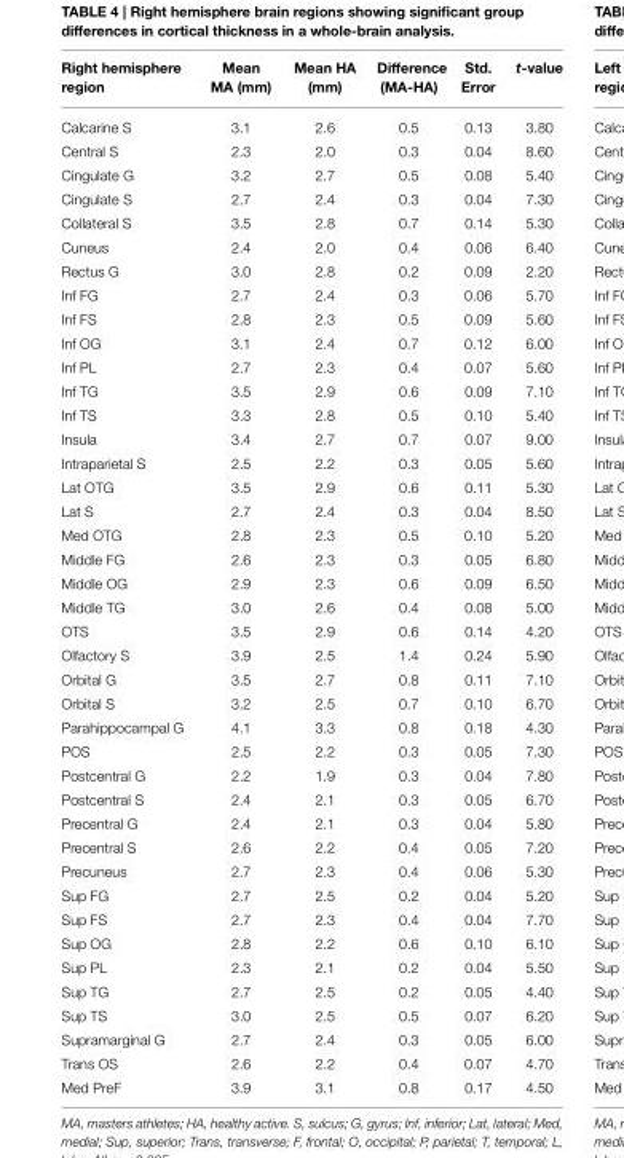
<table><thead><tr><td>Right hemisphere region</td><td>Mean MA (mm)</td><td>Mean HA (mm)</td><td>Difference (MA-HA)</td><td>Std. Error</td><td>t-value</td></tr></thead><tbody><tr><td>Calcarine S</td><td>3.1</td><td>2.6</td><td>0.5</td><td>0.13</td><td>3.80</td></tr><tr><td>Central S</td><td>2.3</td><td>2.0</td><td>0.3</td><td>0.04</td><td>8.60</td></tr><tr><td>Cingulate G</td><td>3.2</td><td>2.7</td><td>0.5</td><td>0.08</td><td>5.40</td></tr><tr><td>Cingulate S</td><td>2.7</td><td>2.4</td><td>0.3</td><td>0.04</td><td>7.30</td></tr><tr><td>Collateral S</td><td>3.5</td><td>2.8</td><td>0.7</td><td>0.14</td><td>5.30</td></tr><tr><td>Cuneus</td><td>2.4</td><td>2.0</td><td>0.4</td><td>0.06</td><td>6.40</td></tr><tr><td>Rectus G</td><td>3.0</td><td>2.8</td><td>0.2</td><td>0.09</td><td>2.20</td></tr><tr><td>Inf FG</td><td>2.7</td><td>2.4</td><td>0.3</td><td>0.06</td><td>5.70</td></tr><tr><td>Inf FS</td><td>2.8</td><td>2.3</td><td>0.5</td><td>0.09</td><td>5.60</td></tr><tr><td>Inf OG</td><td>3.1</td><td>2.4</td><td>0.7</td><td>0.12</td><td>6.00</td></tr><tr><td>Inf PL</td><td>2.7</td><td>2.3</td><td>0.4</td><td>0.07</td><td>5.60</td></tr><tr><td>Inf TG</td><td>3.5</td><td>2.9</td><td>0.6</td><td>0.09</td><td>7.10</td></tr><tr><td>Inf TS</td><td>3.3</td><td>2.8</td><td>0.5</td><td>0.10</td><td>5.40</td></tr><tr><td>Insula</td><td>3.4</td><td>2.7</td><td>0.7</td><td>0.07</td><td>9.00</td></tr><tr><td>Intraparietal S</td><td>2.5</td><td>2.2</td><td>0.3</td><td>0.05</td><td>5.60</td></tr><tr><td>Lat OTG</td><td>3.5</td><td>2.9</td><td>0.6</td><td>0.11</td><td>5.30</td></tr><tr><td>Lat S</td><td>2.7</td><td>2.4</td><td>0.3</td><td>0.04</td><td>8.50</td></tr><tr><td>Med OTG</td><td>2.8</td><td>2.3</td><td>0.5</td><td>0.10</td><td>5.20</td></tr><tr><td>Middle FG</td><td>2.6</td><td>2.3</td><td>0.3</td><td>0.05</td><td>6.80</td></tr><tr><td>Middle OG</td><td>2.9</td><td>2.3</td><td>0.6</td><td>0.09</td><td>6.50</td></tr><tr><td>Middle TG</td><td>3.0</td><td>2.6</td><td>0.4</td><td>0.08</td><td>5.00</td></tr><tr><td>OTS</td><td>3.5</td><td>2.9</td><td>0.6</td><td>0.14</td><td>4.20</td></tr><tr><td>Olfactory S</td><td>3.9</td><td>2.5</td><td>1.4</td><td>0.24</td><td>5.90</td></tr><tr><td>Orbital G</td><td>3.5</td><td>2.7</td><td>0.8</td><td>0.11</td><td>7.10</td></tr><tr><td>Orbital S</td><td>3.2</td><td>2.5</td><td>0.7</td><td>0.10</td><td>6.70</td></tr><tr><td>Parahippocampal G</td><td>4.1</td><td>3.3</td><td>0.8</td><td>0.18</td><td>4.30</td></tr><tr><td>POS</td><td>2.5</td><td>2.2</td><td>0.3</td><td>0.05</td><td>7.30</td></tr><tr><td>Postcentral G</td><td>2.2</td><td>1.9</td><td>0.3</td><td>0.04</td><td>7.80</td></tr><tr><td>Postcentral S</td><td>2.4</td><td>2.1</td><td>0.3</td><td>0.05</td><td>6.70</td></tr><tr><td>Precentral G</td><td>2.4</td><td>2.1</td><td>0.3</td><td>0.04</td><td>5.80</td></tr><tr><td>Precentral S</td><td>2.6</td><td>2.2</td><td>0.4</td><td>0.05</td><td>7.20</td></tr><tr><td>Precuneus</td><td>2.7</td><td>2.3</td><td>0.4</td><td>0.06</td><td>5.30</td></tr><tr><td>Sup FG</td><td>2.7</td><td>2.5</td><td>0.2</td><td>0.04</td><td>5.20</td></tr><tr><td>Sup FS</td><td>2.7</td><td>2.3</td><td>0.4</td><td>0.04</td><td>7.70</td></tr><tr><td>Sup OG</td><td>2.8</td><td>2.2</td><td>0.6</td><td>0.10</td><td>6.10</td></tr><tr><td>Sup PL</td><td>2.3</td><td>2.1</td><td>0.2</td><td>0.04</td><td>5.50</td></tr><tr><td>Sup TG</td><td>2.7</td><td>2.5</td><td>0.2</td><td>0.05</td><td>4.40</td></tr><tr><td>Sup TS</td><td>3.0</td><td>2.5</td><td>0.5</td><td>0.07</td><td>6.20</td></tr><tr><td>Supramarginal G</td><td>2.7</td><td>2.4</td><td>0.3</td><td>0.05</td><td>6.00</td></tr><tr><td>Trans OS</td><td>2.6</td><td>2.2</td><td>0.4</td><td>0.07</td><td>4.70</td></tr><tr><td>Med PreF</td><td>3.9</td><td>3.1</td><td>0.8</td><td>0.17</td><td>4.50</td></tr></tbody></table>